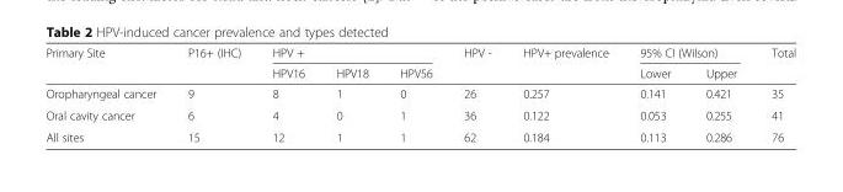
<table><thead><tr><td rowspan="2">Primary Site</td><td rowspan="2">P16+ (IHC)</td><td colspan="3">HPV +</td><td rowspan="2">HPV -</td><td rowspan="2">HPV+ prevalence</td><td colspan="2">95% CI (Wilson)</td><td rowspan="2">Total</td></tr><tr><td>HPV16</td><td>HPV18</td><td>HPV56</td><td>Lower</td><td>Upper</td></tr></thead><tbody><tr><td>Oropharyngeal cancer</td><td>9</td><td>8</td><td>1</td><td>0</td><td>26</td><td>0.257</td><td>0.141</td><td>0.421</td><td>35</td></tr><tr><td>Oral cavity cancer</td><td>6</td><td>4</td><td>0</td><td>1</td><td>36</td><td>0.122</td><td>0.053</td><td>0.255</td><td>41</td></tr><tr><td>All sites</td><td>15</td><td>12</td><td>1</td><td>1</td><td>62</td><td>0.184</td><td>0.113</td><td>0.286</td><td>76</td></tr></tbody></table>